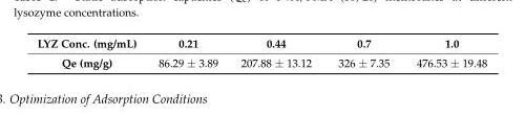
<table><thead><tr><td>LYZ Conc. (mg/mL)</td><td>0.21</td><td>0.44</td><td>0.7</td><td>1.0</td></tr></thead><tbody><tr><td>Qe (mg/g)</td><td>86.29 ± 3.89</td><td>207.88 ± 13.12</td><td>326 ± 7.35</td><td>476.53 ± 19.48</td></tr></tbody></table>